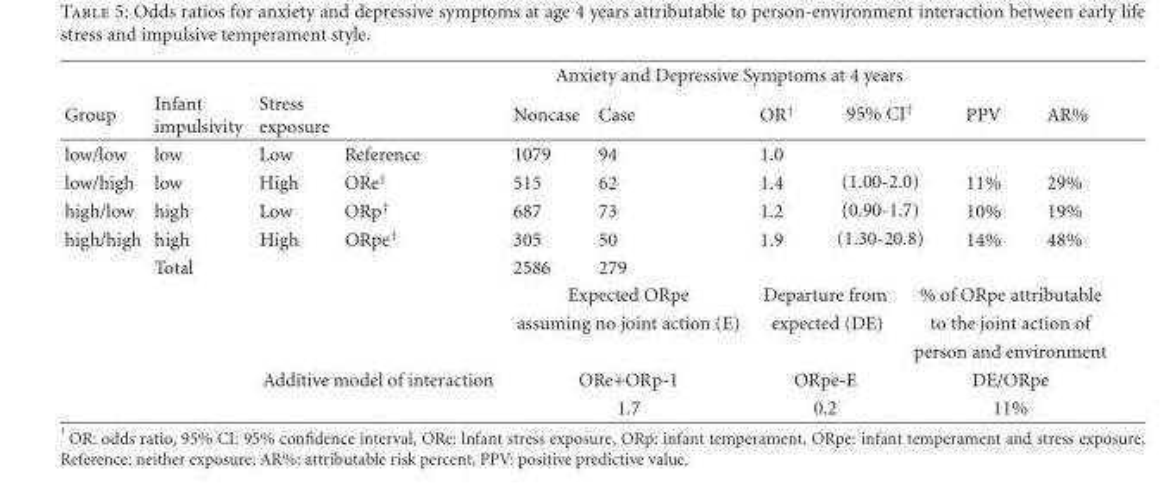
<table><thead><tr><td rowspan="3">Group low/low</td><td rowspan="3">Infant impulsivity low</td><td rowspan="3">Stress exposure Low</td><td colspan="8">Anxiety and Depressive Symptoms at 4 years</td></tr><tr><td rowspan="2">Reference</td><td rowspan="2">Noncase 1079</td><td rowspan="2">Case 94</td><td rowspan="2">OR<sup>†</sup> 1.0</td><td colspan="2">95% CI<sup>†</sup></td><td rowspan="2">PPV</td><td rowspan="2">AR%</td></tr><tr><td></td><td></td></tr></thead><tbody><tr><td>low/high</td><td>low</td><td>High</td><td>ORe<sup>†</sup></td><td>515</td><td>62</td><td>1.4</td><td colspan="2">(1.00-2.0)</td><td>11%</td><td>29%</td></tr><tr><td>high/low</td><td>high</td><td>Low</td><td>ORp<sup>†</sup></td><td>687</td><td>73</td><td>1.2</td><td colspan="2">(0.90-1.7)</td><td>10%</td><td>19%</td></tr><tr><td rowspan="7">high/high</td><td>high</td><td>High</td><td>ORpe<sup>†</sup></td><td>305</td><td>50</td><td>1.9</td><td colspan="2">(1.30-20.8)</td><td>14%</td><td>48%</td></tr><tr><td>Total</td><td></td><td></td><td>2586</td><td>279</td><td></td><td></td><td></td><td></td><td></td></tr><tr><td></td><td></td><td></td><td colspan="2">Expected ORpe</td><td colspan="2">Departure from</td><td colspan="3">% of ORpe attributable</td></tr><tr><td></td><td></td><td></td><td colspan="2">assuming no joint action (E)</td><td colspan="2">expected (DE)</td><td colspan="3">to the joint action of</td></tr><tr><td></td><td></td><td></td><td colspan="2"></td><td colspan="2"></td><td colspan="3">person and environment</td></tr><tr><td></td><td colspan="2">Additive model of interaction</td><td colspan="2">ORe+ORp-1</td><td colspan="2">ORpe-E</td><td colspan="3">DE/ORpe</td></tr><tr><td></td><td></td><td></td><td colspan="2">1.7</td><td colspan="2">0.2</td><td colspan="3">11%</td></tr></tbody></table>